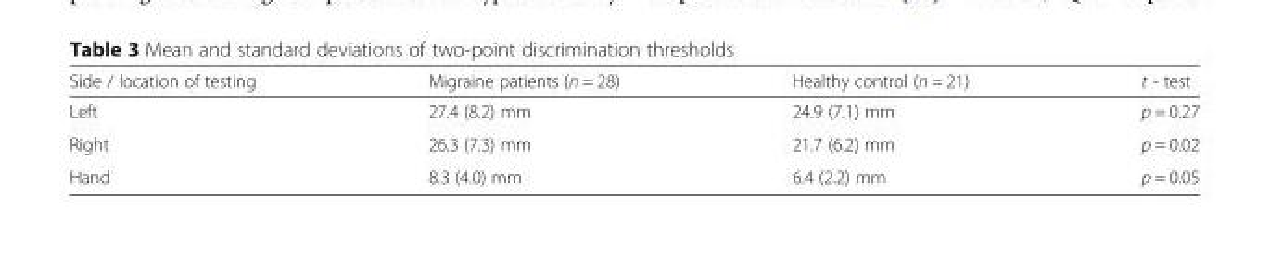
<table><thead><tr><td>Side / location of testing</td><td>Migraine patients (n = 28)</td><td>Healthy control (n = 21)</td><td>t - test</td></tr></thead><tbody><tr><td>Left</td><td>27.4 (8.2) mm</td><td>24.9 (7.1) mm</td><td>p = 0.27</td></tr><tr><td>Right</td><td>26.3 (7.3) mm</td><td>21.7 (6.2) mm</td><td>p = 0.02</td></tr><tr><td>Hand</td><td>8.3 (4.0) mm</td><td>6.4 (2.2) mm</td><td>p = 0.05</td></tr></tbody></table>